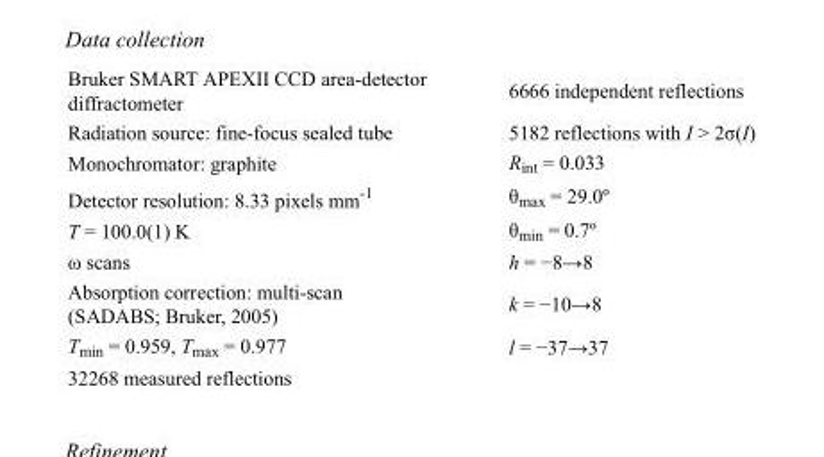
<table><tbody><tr><td>Bruker SMART APEXII CCD area-detector diffractometer</td><td>6666 independent reflections</td></tr><tr><td>Radiation source: fine-focus sealed tube</td><td>5182 reflections with I &gt; 2σ(I)</td></tr><tr><td>Monochromator: graphite</td><td>R<sub>int</sub> = 0.033</td></tr><tr><td>Detector resolution: 8.33 pixels mm<sup>-1</sup></td><td>θ<sub>max</sub> = 29.0º</td></tr><tr><td>T = 100.0(1) K</td><td>θ<sub>min</sub> = 0.7º</td></tr><tr><td>ω scans</td><td>h = −8→8</td></tr><tr><td>Absorption correction: multi-scan (SADABS; Bruker, 2005)</td><td>k = −10→8</td></tr><tr><td>T<sub>min</sub> = 0.959, T<sub>max</sub> = 0.977</td><td>l = −37→37</td></tr><tr><td>32268 measured reflections</td><td></td></tr></tbody></table>